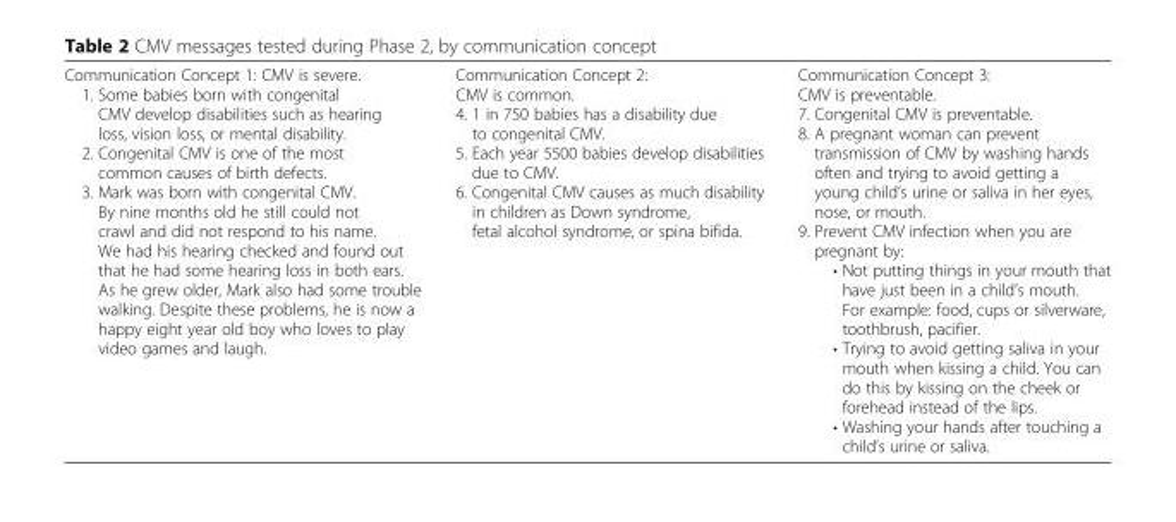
<table><tbody><tr><td>Communication Concept 1: CMV is severe. 1. Some babies born with congenital CMV develop disabilities such as hearing loss, vision loss, or mental disability. 2. Congenital CMV is one of the most common causes of birth defects. 3. Mark was born with congenital CMV. By nine months old he still could not crawl and did not respond to his name. We had his hearing checked and found out that he had some hearing loss in both ears. As he grew older, Mark also had some trouble walking. Despite these problems, he is now a happy eight year old boy who loves to play video games and laugh.</td><td>Communication Concept 2: CMV is common. 4. 1 in 750 babies has a disability due to congenital CMV. 5. Each year 5500 babies develop disabilities due to CMV. 6. Congenital CMV causes as much disability in children as Down syndrome, fetal alcohol syndrome, or spina bifida.</td><td>Communication Concept 3: CMV is preventable. 7. Congenital CMV is preventable. 8. A pregnant woman can prevent transmission of CMV by washing hands often and trying to avoid getting a young child’s urine or saliva in her eyes, nose, or mouth. 9. Prevent CMV infection when you are pregnant by: • Not putting things in your mouth that have just been in a child’s mouth. For example: food, cups or silverware, toothbrush, pacifier. • Trying to avoid getting saliva in your mouth when kissing a child. You can do this by kissing on the cheek or forehead instead of the lips. • Washing your hands after touching a child’s urine or saliva.</td></tr></tbody></table>